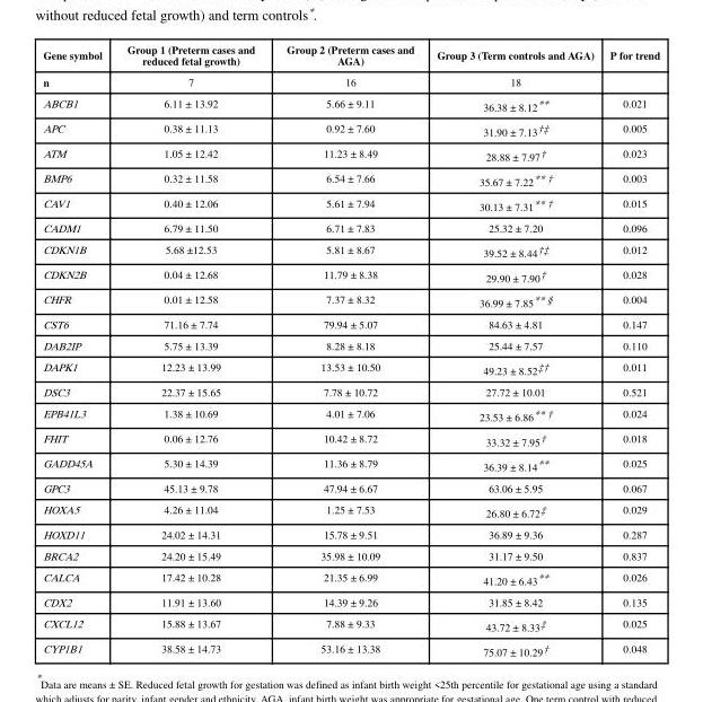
<table><thead><tr><td>Gene symbol</td><td>Group 1 (Preterm cases and reduced fetal growth)</td><td>Group 2 (Preterm cases and AGA)</td><td>Group 3 (Term controls and AGA)</td><td>P for trend</td></tr></thead><tbody><tr><td>n</td><td>7</td><td>16</td><td>18</td><td></td></tr><tr><td>ABCB1</td><td>6.11 ± 13.92</td><td>5.66 ± 9.11</td><td>36.38 ± 8.12**</td><td>0.021</td></tr><tr><td>APC</td><td>0.38 ± 11.13</td><td>0.92 ± 7.60</td><td>31.90 ± 7.13†‡</td><td>0.005</td></tr><tr><td>ATM</td><td>1.05 ± 12.42</td><td>11.23 ± 8.49</td><td>28.88 ± 7.97†</td><td>0.023</td></tr><tr><td>BMP6</td><td>0.32 ± 11.58</td><td>6.54 ± 7.66</td><td>35.67 ± 7.22** †</td><td>0.003</td></tr><tr><td>CAV1</td><td>0.40 ± 12.06</td><td>5.61 ± 7.94</td><td>30.13 ± 7.31** †</td><td>0.015</td></tr><tr><td>CADM1</td><td>6.79 ± 11.50</td><td>6.71 ± 7.83</td><td>25.32 ± 7.20</td><td>0.096</td></tr><tr><td>CDKN1B</td><td>5.68 ±12.53</td><td>5.81 ± 8.67</td><td>39.52 ± 8.44†‡</td><td>0.012</td></tr><tr><td>CDKN2B</td><td>0.04 ± 12.68</td><td>11.79 ± 8.38</td><td>29.90 ± 7.90†</td><td>0.028</td></tr><tr><td>CHFR</td><td>0.01 ± 12.58</td><td>7.37 ± 8.32</td><td>36.99 ± 7.85** §</td><td>0.004</td></tr><tr><td>CST6</td><td>71.16 ± 7.74</td><td>79.94 ± 5.07</td><td>84.63 ± 4.81</td><td>0.147</td></tr><tr><td>DAB2IP</td><td>5.75 ± 13.39</td><td>8.28 ± 8.18</td><td>25.44 ± 7.57</td><td>0.110</td></tr><tr><td>DAPK1</td><td>12.23 ± 13.99</td><td>13.53 ± 10.50</td><td>49.23 ± 8.52‡†</td><td>0.011</td></tr><tr><td>DSC3</td><td>22.37 ± 15.65</td><td>7.78 ± 10.72</td><td>27.72 ± 10.01</td><td>0.521</td></tr><tr><td>EPB41L3</td><td>1.38 ± 10.69</td><td>4.01 ± 7.06</td><td>23.53 ± 6.86** †</td><td>0.024</td></tr><tr><td>FHIT</td><td>0.06 ± 12.76</td><td>10.42 ± 8.72</td><td>33.32 ± 7.95†</td><td>0.018</td></tr><tr><td>GADD45A</td><td>5.30 ± 14.39</td><td>11.36 ± 8.79</td><td>36.39 ± 8.14**</td><td>0.025</td></tr><tr><td>GPC3</td><td>45.13 ± 9.78</td><td>47.94 ± 6.67</td><td>63.06 ± 5.95</td><td>0.067</td></tr><tr><td>HOXA5</td><td>4.26 ± 11.04</td><td>1.25 ± 7.53</td><td>26.80 ± 6.72‡</td><td>0.029</td></tr><tr><td>HOXD11</td><td>24.02 ± 14.31</td><td>15.78 ± 9.51</td><td>36.89 ± 9.36</td><td>0.287</td></tr><tr><td>BRCA2</td><td>24.20 ± 15.49</td><td>35.98 ± 10.09</td><td>31.17 ± 9.50</td><td>0.837</td></tr><tr><td>CALCA</td><td>17.42 ± 10.28</td><td>21.35 ± 6.99</td><td>41.20 ± 6.43**</td><td>0.026</td></tr><tr><td>CDX2</td><td>11.91 ± 13.60</td><td>14.39 ± 9.26</td><td>31.85 ± 8.42</td><td>0.135</td></tr><tr><td>CXCL12</td><td>15.88 ± 13.67</td><td>7.88 ± 9.33</td><td>43.72 ± 8.33‡</td><td>0.025</td></tr><tr><td>CYP1B1</td><td>38.58 ± 14.73</td><td>53.16 ± 13.38</td><td>75.07 ± 10.29†</td><td>0.048</td></tr></tbody></table>